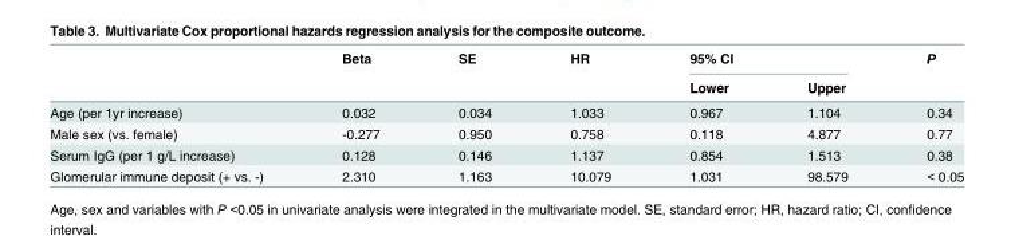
<table><thead><tr><td rowspan="2"></td><td rowspan="2">Beta</td><td rowspan="2">SE</td><td rowspan="2">HR</td><td colspan="2">95% CI</td><td rowspan="2">P</td></tr><tr><td>Lower</td><td>Upper</td></tr></thead><tbody><tr><td>Age (per 1yr increase)</td><td>0.032</td><td>0.034</td><td>1.033</td><td>0.967</td><td>1.104</td><td>0.34</td></tr><tr><td>Male sex (vs. female)</td><td>-0.277</td><td>0.950</td><td>0.758</td><td>0.118</td><td>4.877</td><td>0.77</td></tr><tr><td>Serum IgG (per 1 g/L increase)</td><td>0.128</td><td>0.146</td><td>1.137</td><td>0.854</td><td>1.513</td><td>0.38</td></tr><tr><td>Glomerular immune deposit (+ vs. -)</td><td>2.310</td><td>1.163</td><td>10.079</td><td>1.031</td><td>98.579</td><td>&lt; 0.05</td></tr></tbody></table>